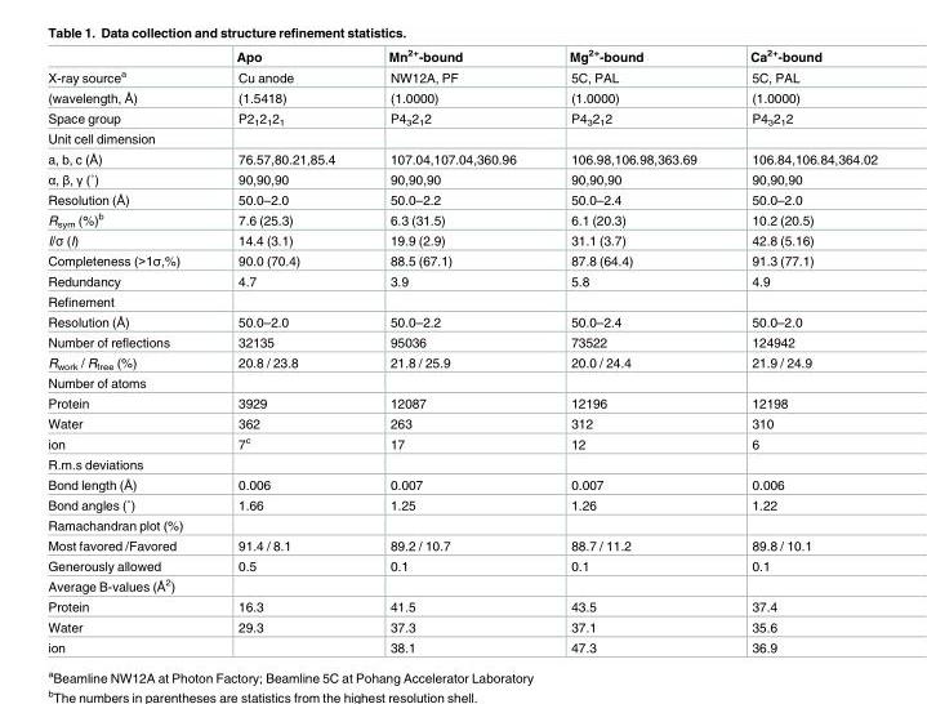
<table><thead><tr><td></td><td>Apo</td><td>Mn<sup>2+</sup>-bound</td><td>Mg<sup>2+</sup>-bound</td><td>Ca<sup>2+</sup>-bound</td></tr></thead><tbody><tr><td>X-ray source<sup>a</sup></td><td>Cu anode</td><td>NW12A, PF</td><td>5C, PAL</td><td>5C, PAL</td></tr><tr><td>(wavelength, Å)</td><td>(1.5418)</td><td>(1.0000)</td><td>(1.0000)</td><td>(1.0000)</td></tr><tr><td>Space group</td><td>P2<sub>1</sub>2<sub>1</sub>2<sub>1</sub></td><td>P4<sub>3</sub>2<sub>1</sub>2</td><td>P4<sub>3</sub>2<sub>1</sub>2</td><td>P4<sub>3</sub>2<sub>1</sub>2</td></tr><tr><td colspan="5">Unit cell dimension</td></tr><tr><td>a, b, c (Å)</td><td>76.57,80.21,85.4</td><td>107.04,107.04,360.96</td><td>106.98,106.98,363.69</td><td>106.84,106.84,364.02</td></tr><tr><td>α, β, γ (˚)</td><td>90,90,90</td><td>90,90,90</td><td>90,90,90</td><td>90,90,90</td></tr><tr><td>Resolution (Å)</td><td>50.0–2.0</td><td>50.0–2.2</td><td>50.0–2.4</td><td>50.0–2.0</td></tr><tr><td>R<sub>sym</sub> (%)<sup>b</sup></td><td>7.6 (25.3)</td><td>6.3 (31.5)</td><td>6.1 (20.3)</td><td>10.2 (20.5)</td></tr><tr><td>I/σ (I)</td><td>14.4 (3.1)</td><td>19.9 (2.9)</td><td>31.1 (3.7)</td><td>42.8 (5.16)</td></tr><tr><td>Completeness (&gt;1σ,%)</td><td>90.0 (70.4)</td><td>88.5 (67.1)</td><td>87.8 (64.4)</td><td>91.3 (77.1)</td></tr><tr><td>Redundancy</td><td>4.7</td><td>3.9</td><td>5.8</td><td>4.9</td></tr><tr><td colspan="5">Refinement</td></tr><tr><td>Resolution (Å)</td><td>50.0–2.0</td><td>50.0–2.2</td><td>50.0–2.4</td><td>50.0–2.0</td></tr><tr><td>Number of reflections</td><td>32135</td><td>95036</td><td>73522</td><td>124942</td></tr><tr><td>R<sub>work</sub> / R<sub>free</sub> (%)</td><td>20.8 / 23.8</td><td>21.8 / 25.9</td><td>20.0 / 24.4</td><td>21.9 / 24.9</td></tr><tr><td colspan="5">Number of atoms</td></tr><tr><td>Protein</td><td>3929</td><td>12087</td><td>12196</td><td>12198</td></tr><tr><td>Water</td><td>362</td><td>263</td><td>312</td><td>310</td></tr><tr><td>ion</td><td>7<sup>c</sup></td><td>17</td><td>12</td><td>6</td></tr><tr><td colspan="5">R.m.s deviations</td></tr><tr><td>Bond length (Å)</td><td>0.006</td><td>0.007</td><td>0.007</td><td>0.006</td></tr><tr><td>Bond angles (˚)</td><td>1.66</td><td>1.25</td><td>1.26</td><td>1.22</td></tr><tr><td colspan="5">Ramachandran plot (%)</td></tr><tr><td>Most favored /Favored</td><td>91.4 / 8.1</td><td>89.2 / 10.7</td><td>88.7 / 11.2</td><td>89.8 / 10.1</td></tr><tr><td>Generously allowed</td><td>0.5</td><td>0.1</td><td>0.1</td><td>0.1</td></tr><tr><td colspan="5">Average B-values (Å<sup>2</sup>)</td></tr><tr><td>Protein</td><td>16.3</td><td>41.5</td><td>43.5</td><td>37.4</td></tr><tr><td>Water</td><td>29.3</td><td>37.3</td><td>37.1</td><td>35.6</td></tr><tr><td>ion</td><td></td><td>38.1</td><td>47.3</td><td>36.9</td></tr></tbody></table>